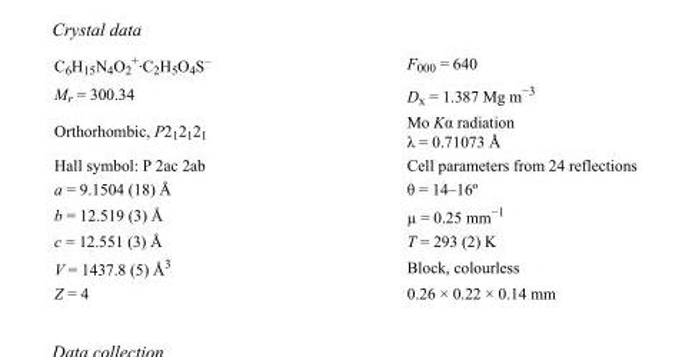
<table><tbody><tr><td>C<sub>6</sub>H<sub>15</sub>N<sub>4</sub>O<sub>2</sub> <sup>+</sup>·C<sub>2</sub>H<sub>5</sub>O<sub>4</sub>S<sup>–</sup></td><td>F000 = 640</td></tr><tr><td>M<sub>r</sub> = 300.34</td><td>D<sub>x</sub> = 1.387 Mg m<sup>−3</sup></td></tr><tr><td>Orthorhombic, P2<sub>1</sub>2<sub>1</sub>2<sub>1</sub></td><td>Mo Kα radiation λ = 0.71073 Å</td></tr><tr><td>Hall symbol: P 2ac 2ab</td><td>Cell parameters from 24 reflections</td></tr><tr><td>a = 9.1504 (18) Å</td><td>θ = 14–16º</td></tr><tr><td>b = 12.519 (3) Å</td><td>µ = 0.25 mm<sup>−1</sup></td></tr><tr><td>c = 12.551 (3) Å</td><td>T = 293 (2) K</td></tr><tr><td>V = 1437.8 (5) Å<sup>3</sup></td><td>Block, colourless</td></tr><tr><td>Z = 4</td><td>0.26 × 0.22 × 0.14 mm</td></tr></tbody></table>